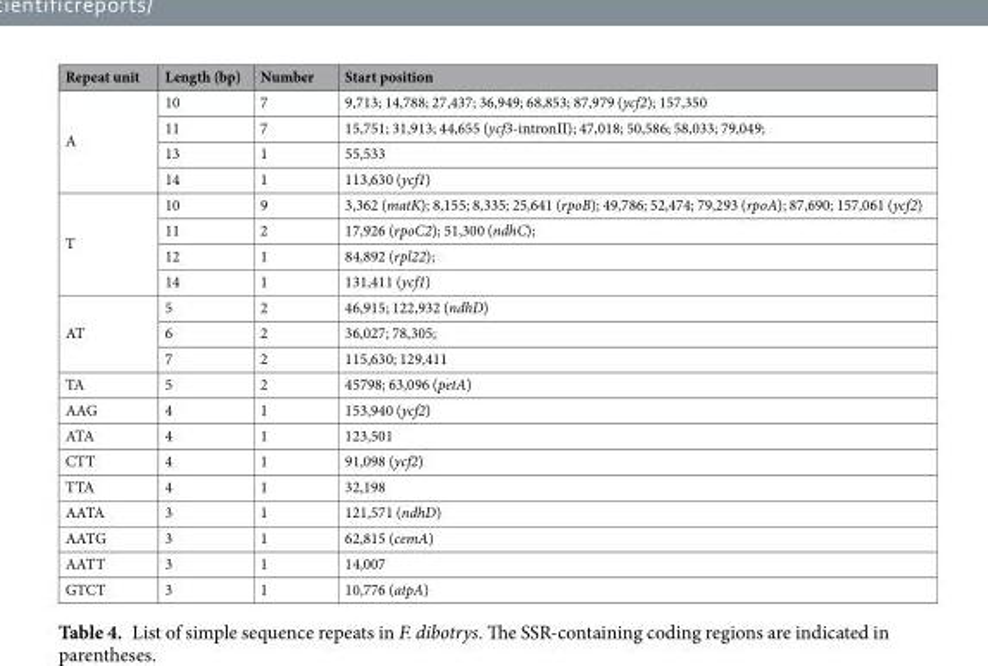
<table><thead><tr><td>Repeat unit</td><td>Length (bp)</td><td>Number</td><td>Start position</td></tr></thead><tbody><tr><td rowspan="4">A</td><td>10</td><td>7</td><td>9,713; 14,788; 27,437; 36,949; 68,853; 87,979 (ycf2); 157,350</td></tr><tr><td>11</td><td>7</td><td>15,751; 31,913; 44,655 (ycf3-intronII); 47,018; 50,586; 58,033; 79,049;</td></tr><tr><td>13</td><td>1</td><td>55,533</td></tr><tr><td>14</td><td>1</td><td>113,630 (ycf1)</td></tr><tr><td rowspan="4">T</td><td>10</td><td>9</td><td>3,362 (matK); 8,155; 8,335; 25,641 (rpoB); 49,786; 52,474; 79,293 (rpoA); 87,690; 157,061 (ycf2)</td></tr><tr><td>11</td><td>2</td><td>17,926 (rpoC2); 51,300 (ndhC);</td></tr><tr><td>12</td><td>1</td><td>84,892 (rpl22);</td></tr><tr><td>14</td><td>1</td><td>131,411 (ycf1)</td></tr><tr><td rowspan="3">AT</td><td>5</td><td>2</td><td>46,915; 122,932 (ndhD)</td></tr><tr><td>6</td><td>2</td><td>36,027; 78,305;</td></tr><tr><td>7</td><td>2</td><td>115,630; 129,411</td></tr><tr><td>TA</td><td>5</td><td>2</td><td>45798; 63,096 (petA)</td></tr><tr><td>AAG</td><td>4</td><td>1</td><td>153,940 (ycf2)</td></tr><tr><td>ATA</td><td>4</td><td>1</td><td>123,501</td></tr><tr><td>CTT</td><td>4</td><td>1</td><td>91,098 (ycf2)</td></tr><tr><td>TTA</td><td>4</td><td>1</td><td>32,198</td></tr><tr><td>AATA</td><td>3</td><td>1</td><td>121,571 (ndhD)</td></tr><tr><td>AATG</td><td>3</td><td>1</td><td>62,815 (cemA)</td></tr><tr><td>AATT</td><td>3</td><td>1</td><td>14,007</td></tr><tr><td>GTCT</td><td>3</td><td>1</td><td>10,776 (atpA)</td></tr></tbody></table>